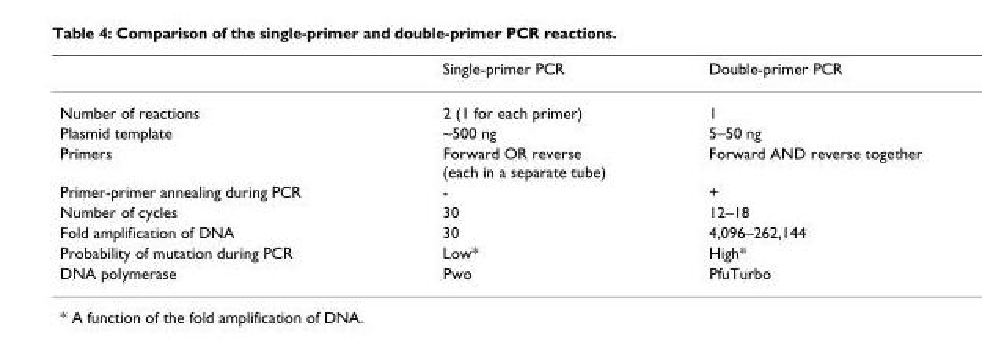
<table><thead><tr><td></td><td>Single-primer PCR</td><td>Double-primer PCR</td></tr></thead><tbody><tr><td>Number of reactions</td><td>2 (1 for each primer)</td><td>1</td></tr><tr><td>Plasmid template</td><td>~500 ng</td><td>5–50 ng</td></tr><tr><td>Primers</td><td>Forward OR reverse (each in a separate tube)</td><td>Forward AND reverse together</td></tr><tr><td>Primer-primer annealing during PCR</td><td>-</td><td>+</td></tr><tr><td>Number of cycles</td><td>30</td><td>12–18</td></tr><tr><td>Fold amplification of DNA</td><td>30</td><td>4,096–262,144</td></tr><tr><td>Probability of mutation during PCR</td><td>Low*</td><td>High*</td></tr><tr><td>DNA polymerase</td><td>Pwo</td><td>PfuTurbo</td></tr></tbody></table>